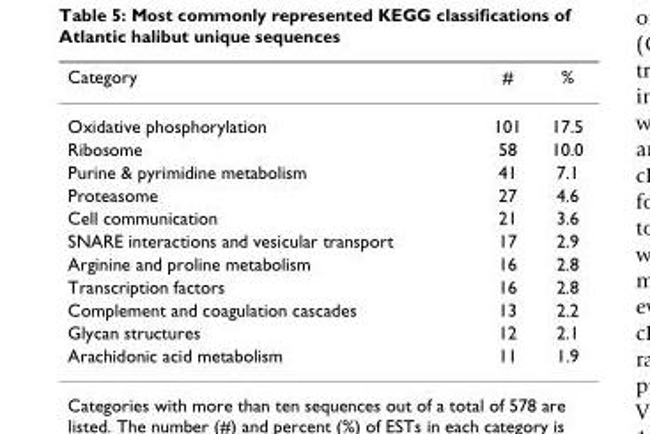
<table><thead><tr><td>Category</td><td>#</td><td>%</td></tr></thead><tbody><tr><td>Oxidative phosphorylation</td><td>101</td><td>17.5</td></tr><tr><td>Ribosome</td><td>58</td><td>10.0</td></tr><tr><td>Purine &amp; pyrimidine metabolism</td><td>41</td><td>7.1</td></tr><tr><td>Proteasome</td><td>27</td><td>4.6</td></tr><tr><td>Cell communication</td><td>21</td><td>3.6</td></tr><tr><td>SNARE interactions and vesicular transport</td><td>17</td><td>2.9</td></tr><tr><td>Arginine and proline metabolism</td><td>16</td><td>2.8</td></tr><tr><td>Transcription factors</td><td>16</td><td>2.8</td></tr><tr><td>Complement and coagulation cascades</td><td>13</td><td>2.2</td></tr><tr><td>Glycan structures</td><td>12</td><td>2.1</td></tr><tr><td>Arachidonic acid metabolism</td><td>11</td><td>1.9</td></tr></tbody></table>